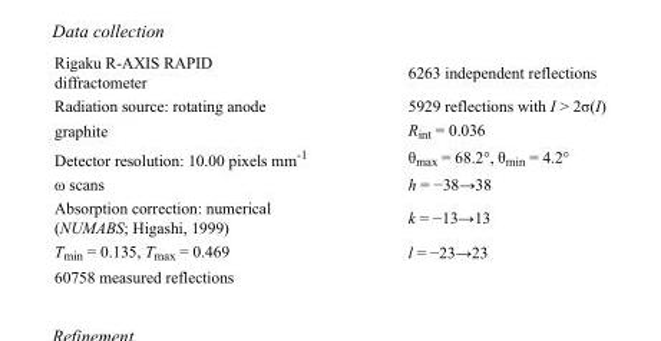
<table><tbody><tr><td>Rigaku R-AXIS RAPID diffractometer</td><td>6263 independent reflections</td></tr><tr><td>Radiation source: rotating anode</td><td>5929 reflections with I &gt; 2σ(I)</td></tr><tr><td>graphite</td><td>R<sub>int</sub> = 0.036</td></tr><tr><td>Detector resolution: 10.00 pixels mm<sup>-1</sup></td><td>θ<sub>max</sub> = 68.2°, θ<sub>min</sub> = 4.2°</td></tr><tr><td>ω scans</td><td>h = −38→38</td></tr><tr><td>Absorption correction: numerical (NUMABS; Higashi, 1999)</td><td>k = −13→13</td></tr><tr><td>T<sub>min</sub> = 0.135, T<sub>max</sub> = 0.469</td><td>l = −23→23</td></tr><tr><td>60758 measured reflections</td><td></td></tr></tbody></table>